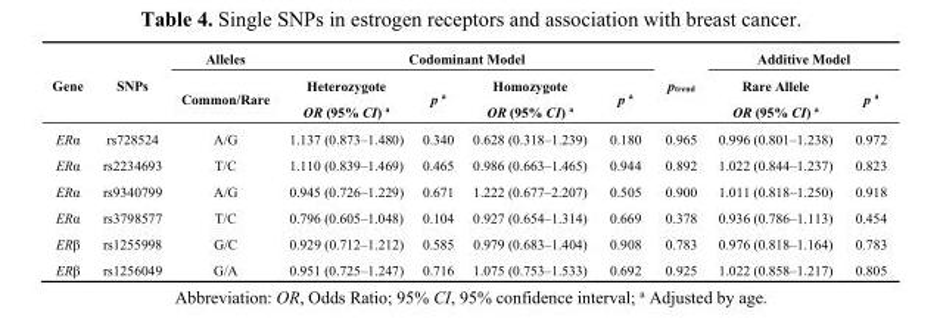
<table><thead><tr><td rowspan="2">Gene</td><td rowspan="2">SNPs</td><td rowspan="2">Alleles Common/Rare</td><td colspan="4">Codominant Model</td><td rowspan="2">p<sub>trend</sub></td><td colspan="2">Additive Model</td></tr><tr><td>Heterozygote OR (95% CI) <sup>a</sup></td><td>p <sup>a</sup></td><td>Homozygote OR (95% CI) <sup>a</sup></td><td>p <sup>a</sup></td><td>Rare Allele OR (95% CI) <sup>a</sup></td><td>p <sup>a</sup></td></tr></thead><tbody><tr><td>ERα</td><td>rs728524</td><td>A/G</td><td>1.137 (0.873–1.480)</td><td>0.340</td><td>0.628 (0.318–1.239)</td><td>0.180</td><td>0.965</td><td>0.996 (0.801–1.238)</td><td>0.972</td></tr><tr><td>ERα</td><td>rs2234693</td><td>T/C</td><td>1.110 (0.839–1.469)</td><td>0.465</td><td>0.986 (0.663–1.465)</td><td>0.944</td><td>0.892</td><td>1.022 (0.844–1.237)</td><td>0.823</td></tr><tr><td>ERα</td><td>rs9340799</td><td>A/G</td><td>0.945 (0.726–1.229)</td><td>0.671</td><td>1.222 (0.677–2.207)</td><td>0.505</td><td>0.900</td><td>1.011 (0.818–1.250)</td><td>0.918</td></tr><tr><td>ERα</td><td>rs3798577</td><td>T/C</td><td>0.796 (0.605–1.048)</td><td>0.104</td><td>0.927 (0.654–1.314)</td><td>0.669</td><td>0.378</td><td>0.936 (0.786–1.113)</td><td>0.454</td></tr><tr><td>ERβ</td><td>rs1255998</td><td>G/C</td><td>0.929 (0.712–1.212)</td><td>0.585</td><td>0.979 (0.683–1.404)</td><td>0.908</td><td>0.783</td><td>0.976 (0.818–1.164)</td><td>0.783</td></tr><tr><td>ERβ</td><td>rs1256049</td><td>G/A</td><td>0.951 (0.725–1.247)</td><td>0.716</td><td>1.075 (0.753–1.533)</td><td>0.692</td><td>0.925</td><td>1.022 (0.858–1.217)</td><td>0.805</td></tr></tbody></table>